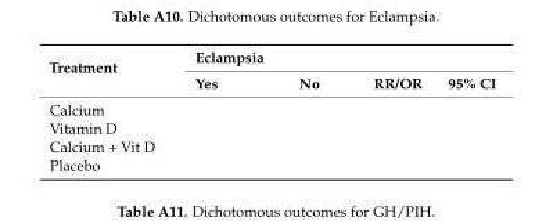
<table><thead><tr><td rowspan="2">Treatment</td><td colspan="4">Eclampsia</td></tr><tr><td>Yes</td><td>No</td><td>RR/OR</td><td>95% CI</td></tr></thead><tbody><tr><td colspan="5">Calcium</td></tr><tr><td colspan="5">Vitamin D</td></tr><tr><td colspan="5">Calcium + Vit D</td></tr><tr><td>Placebo</td><td></td><td></td><td></td><td></td></tr></tbody></table>